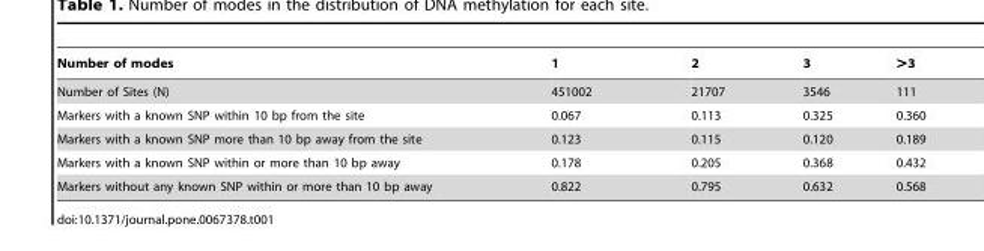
<table><thead><tr><td>Number of modes</td><td>1</td><td>2</td><td>3</td><td>&gt;3</td></tr></thead><tbody><tr><td>Number of Sites (N)</td><td>451002</td><td>21707</td><td>3546</td><td>111</td></tr><tr><td>Markers with a known SNP within 10 bp from the site</td><td>0.067</td><td>0.113</td><td>0.325</td><td>0.360</td></tr><tr><td>Markers with a known SNP more than 10 bp away from the site</td><td>0.123</td><td>0.115</td><td>0.120</td><td>0.189</td></tr><tr><td>Markers with a known SNP within or more than 10 bp away</td><td>0.178</td><td>0.205</td><td>0.368</td><td>0.432</td></tr><tr><td>Markers without any known SNP within or more than 10 bp away</td><td>0.822</td><td>0.795</td><td>0.632</td><td>0.568</td></tr></tbody></table>